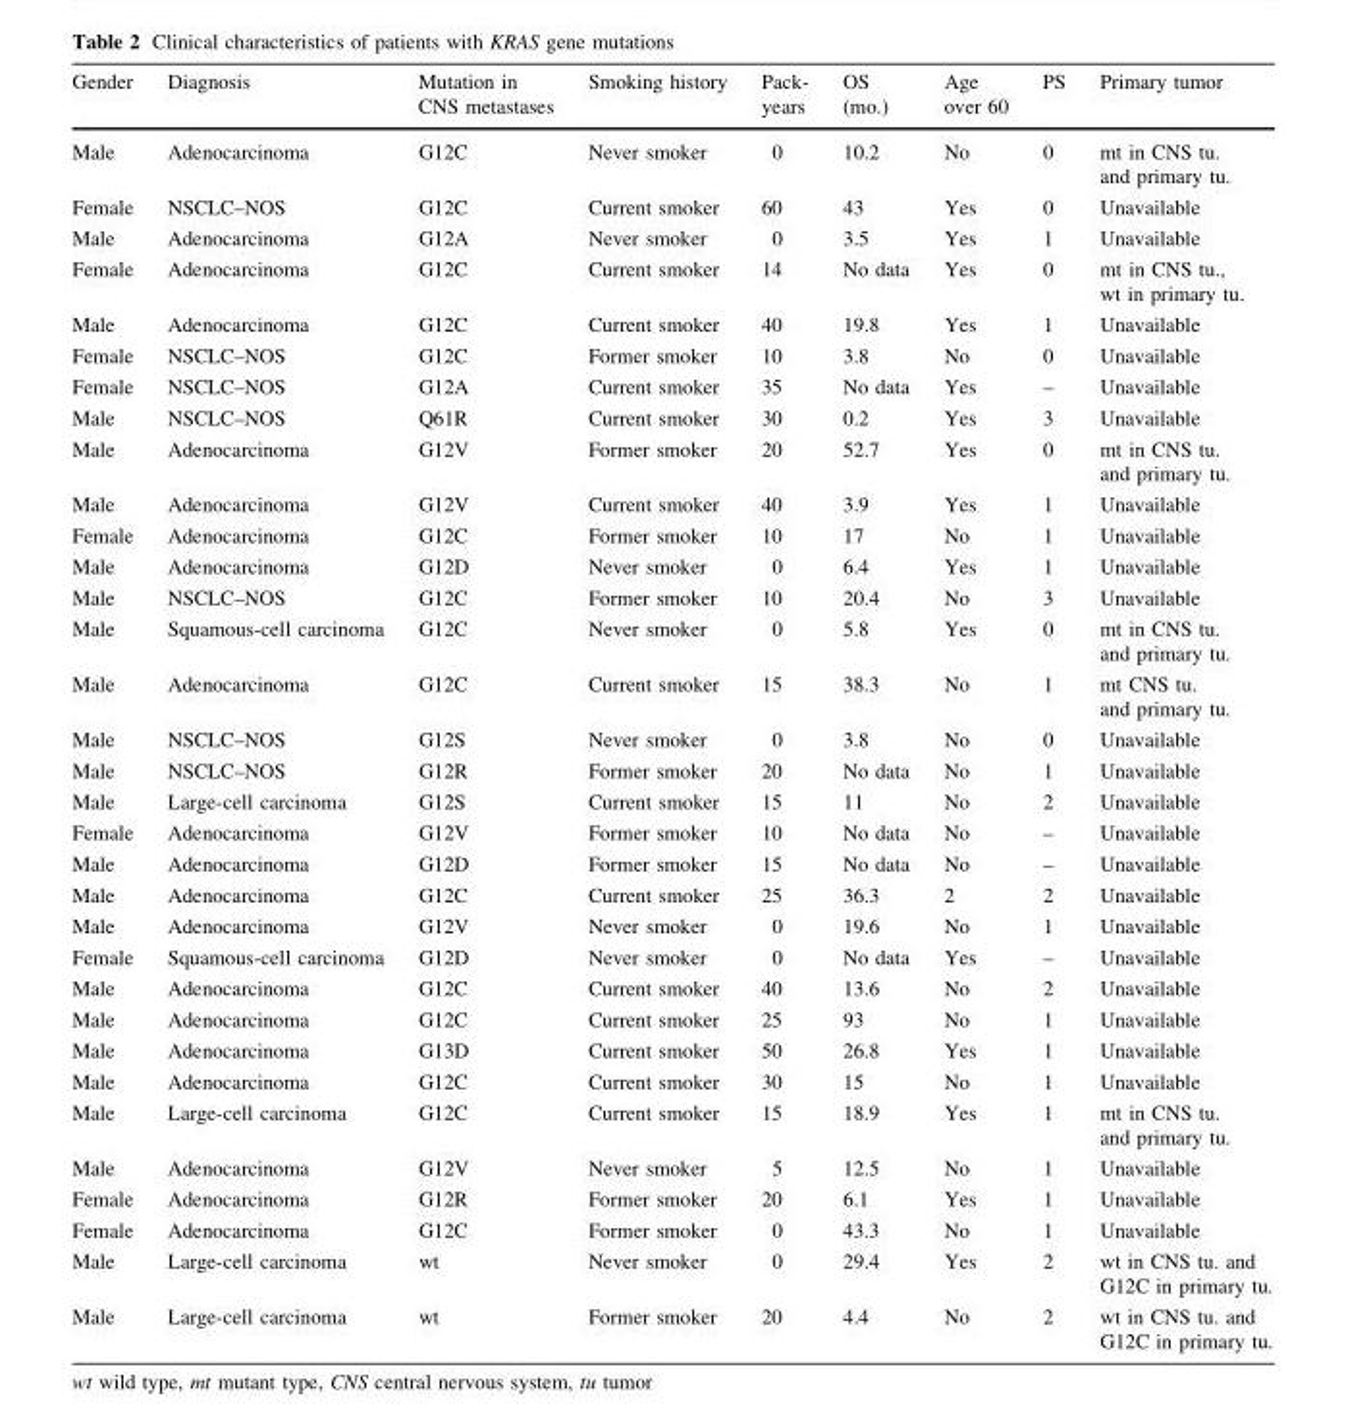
<table><thead><tr><td>Gender</td><td>Diagnosis</td><td>Mutation in CNS metastases</td><td>Smoking history</td><td>Pack- years</td><td>OS (mo.)</td><td>Age over 60</td><td>PS</td><td>Primary tumor</td></tr></thead><tbody><tr><td>Male</td><td>Adenocarcinoma</td><td>G12C</td><td>Never smoker</td><td>0</td><td>10.2</td><td>No</td><td>0</td><td>mt in CNS tu. and primary tu.</td></tr><tr><td>Female</td><td>NSCLC–NOS</td><td>G12C</td><td>Current smoker</td><td>60</td><td>43</td><td>Yes</td><td>0</td><td>Unavailable</td></tr><tr><td>Male</td><td>Adenocarcinoma</td><td>G12A</td><td>Never smoker</td><td>0</td><td>3.5</td><td>Yes</td><td>1</td><td>Unavailable</td></tr><tr><td>Female</td><td>Adenocarcinoma</td><td>G12C</td><td>Current smoker</td><td>14</td><td>No data</td><td>Yes</td><td>0</td><td>mt in CNS tu., wt in primary tu.</td></tr><tr><td>Male</td><td>Adenocarcinoma</td><td>G12C</td><td>Current smoker</td><td>40</td><td>19.8</td><td>Yes</td><td>1</td><td>Unavailable</td></tr><tr><td>Female</td><td>NSCLC–NOS</td><td>G12C</td><td>Former smoker</td><td>10</td><td>3.8</td><td>No</td><td>0</td><td>Unavailable</td></tr><tr><td>Female</td><td>NSCLC–NOS</td><td>G12A</td><td>Current smoker</td><td>35</td><td>No data</td><td>Yes</td><td>–</td><td>Unavailable</td></tr><tr><td>Male</td><td>NSCLC–NOS</td><td>Q61R</td><td>Current smoker</td><td>30</td><td>0.2</td><td>Yes</td><td>3</td><td>Unavailable</td></tr><tr><td>Male</td><td>Adenocarcinoma</td><td>G12V</td><td>Former smoker</td><td>20</td><td>52.7</td><td>Yes</td><td>0</td><td>mt in CNS tu. and primary tu.</td></tr><tr><td>Male</td><td>Adenocarcinoma</td><td>G12V</td><td>Current smoker</td><td>40</td><td>3.9</td><td>Yes</td><td>1</td><td>Unavailable</td></tr><tr><td>Female</td><td>Adenocarcinoma</td><td>G12C</td><td>Former smoker</td><td>10</td><td>17</td><td>No</td><td>1</td><td>Unavailable</td></tr><tr><td>Male</td><td>Adenocarcinoma</td><td>G12D</td><td>Never smoker</td><td>0</td><td>6.4</td><td>Yes</td><td>1</td><td>Unavailable</td></tr><tr><td>Male</td><td>NSCLC–NOS</td><td>G12C</td><td>Former smoker</td><td>10</td><td>20.4</td><td>No</td><td>3</td><td>Unavailable</td></tr><tr><td>Male</td><td>Squamous-cell carcinoma</td><td>G12C</td><td>Never smoker</td><td>0</td><td>5.8</td><td>Yes</td><td>0</td><td>mt in CNS tu. and primary tu.</td></tr><tr><td>Male</td><td>Adenocarcinoma</td><td>G12C</td><td>Current smoker</td><td>15</td><td>38.3</td><td>No</td><td>1</td><td>mt CNS tu. and primary tu.</td></tr><tr><td>Male</td><td>NSCLC–NOS</td><td>G12S</td><td>Never smoker</td><td>0</td><td>3.8</td><td>No</td><td>0</td><td>Unavailable</td></tr><tr><td>Male</td><td>NSCLC–NOS</td><td>G12R</td><td>Former smoker</td><td>20</td><td>No data</td><td>No</td><td>1</td><td>Unavailable</td></tr><tr><td>Male</td><td>Large-cell carcinoma</td><td>G12S</td><td>Current smoker</td><td>15</td><td>11</td><td>No</td><td>2</td><td>Unavailable</td></tr><tr><td>Female</td><td>Adenocarcinoma</td><td>G12V</td><td>Former smoker</td><td>10</td><td>No data</td><td>No</td><td>–</td><td>Unavailable</td></tr><tr><td>Male</td><td>Adenocarcinoma</td><td>G12D</td><td>Former smoker</td><td>15</td><td>No data</td><td>No</td><td>–</td><td>Unavailable</td></tr><tr><td>Male</td><td>Adenocarcinoma</td><td>G12C</td><td>Current smoker</td><td>25</td><td>36.3</td><td>2</td><td>2</td><td>Unavailable</td></tr><tr><td>Male</td><td>Adenocarcinoma</td><td>G12V</td><td>Never smoker</td><td>0</td><td>19.6</td><td>No</td><td>1</td><td>Unavailable</td></tr><tr><td>Female</td><td>Squamous-cell carcinoma</td><td>G12D</td><td>Never smoker</td><td>0</td><td>No data</td><td>Yes</td><td>–</td><td>Unavailable</td></tr><tr><td>Male</td><td>Adenocarcinoma</td><td>G12C</td><td>Current smoker</td><td>40</td><td>13.6</td><td>No</td><td>2</td><td>Unavailable</td></tr><tr><td>Male</td><td>Adenocarcinoma</td><td>G12C</td><td>Current smoker</td><td>25</td><td>93</td><td>No</td><td>1</td><td>Unavailable</td></tr><tr><td>Male</td><td>Adenocarcinoma</td><td>G13D</td><td>Current smoker</td><td>50</td><td>26.8</td><td>Yes</td><td>1</td><td>Unavailable</td></tr><tr><td>Male</td><td>Adenocarcinoma</td><td>G12C</td><td>Current smoker</td><td>30</td><td>15</td><td>No</td><td>1</td><td>Unavailable</td></tr><tr><td>Male</td><td>Large-cell carcinoma</td><td>G12C</td><td>Current smoker</td><td>15</td><td>18.9</td><td>Yes</td><td>1</td><td>mt in CNS tu. and primary tu.</td></tr><tr><td>Male</td><td>Adenocarcinoma</td><td>G12V</td><td>Never smoker</td><td>5</td><td>12.5</td><td>No</td><td>1</td><td>Unavailable</td></tr><tr><td>Female</td><td>Adenocarcinoma</td><td>G12R</td><td>Former smoker</td><td>20</td><td>6.1</td><td>Yes</td><td>1</td><td>Unavailable</td></tr><tr><td>Female</td><td>Adenocarcinoma</td><td>G12C</td><td>Former smoker</td><td>0</td><td>43.3</td><td>No</td><td>1</td><td>Unavailable</td></tr><tr><td>Male</td><td>Large-cell carcinoma</td><td>wt</td><td>Never smoker</td><td>0</td><td>29.4</td><td>Yes</td><td>2</td><td>wt in CNS tu. and G12C in primary tu.</td></tr><tr><td>Male</td><td>Large-cell carcinoma</td><td>wt</td><td>Former smoker</td><td>20</td><td>4.4</td><td>No</td><td>2</td><td>wt in CNS tu. and G12C in primary tu.</td></tr></tbody></table>